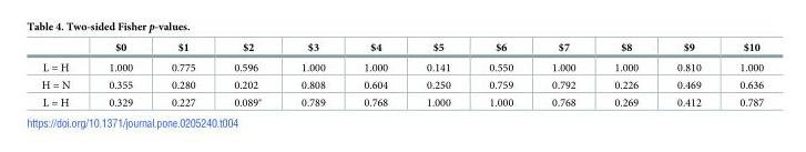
<table><thead><tr><td></td><td>$0</td><td>$1</td><td>$2</td><td>$3</td><td>$4</td><td>$5</td><td>$6</td><td>$7</td><td>$8</td><td>$9</td><td>$10</td></tr></thead><tbody><tr><td>L = H</td><td>1.000</td><td>0.775</td><td>0.596</td><td>1.000</td><td>1.000</td><td>0.141</td><td>0.550</td><td>1.000</td><td>1.000</td><td>0.810</td><td>1.000</td></tr><tr><td>H = N</td><td>0.355</td><td>0.280</td><td>0.202</td><td>0.808</td><td>0.604</td><td>0.250</td><td>0.759</td><td>0.792</td><td>0.226</td><td>0.469</td><td>0.636</td></tr><tr><td>L = H</td><td>0.329</td><td>0.227</td><td>0.089*</td><td>0.789</td><td>0.768</td><td>1.000</td><td>1.000</td><td>0.768</td><td>0.269</td><td>0.412</td><td>0.787</td></tr></tbody></table>